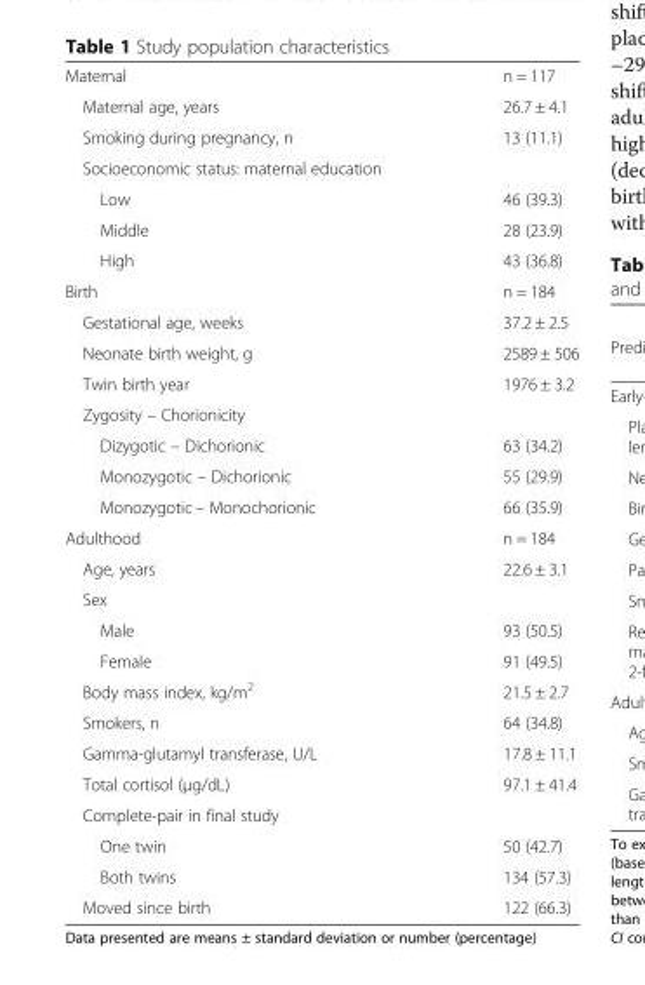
<table><tbody><tr><td>Maternal</td><td>n = 117</td></tr><tr><td>Maternal age, years</td><td>26.7 ± 4.1</td></tr><tr><td>Smoking during pregnancy, n</td><td>13 (11.1)</td></tr><tr><td colspan="2">Socioeconomic status: maternal education</td></tr><tr><td>Low</td><td>46 (39.3)</td></tr><tr><td>Middle</td><td>28 (23.9)</td></tr><tr><td>High</td><td>43 (36.8)</td></tr><tr><td>Birth</td><td>n = 184</td></tr><tr><td>Gestational age, weeks</td><td>37.2 ± 2.5</td></tr><tr><td>Neonate birth weight, g</td><td>2589 ± 506</td></tr><tr><td>Twin birth year</td><td>1976 ± 3.2</td></tr><tr><td colspan="2">Zygosity – Chorionicity</td></tr><tr><td>Dizygotic – Dichorionic</td><td>63 (34.2)</td></tr><tr><td>Monozygotic – Dichorionic</td><td>55 (29.9)</td></tr><tr><td>Monozygotic – Monochorionic</td><td>66 (35.9)</td></tr><tr><td>Adulthood</td><td>n = 184</td></tr><tr><td>Age, years</td><td>22.6 ± 3.1</td></tr><tr><td colspan="2">Sex</td></tr><tr><td>Male</td><td>93 (50.5)</td></tr><tr><td>Female</td><td>91 (49.5)</td></tr><tr><td>Body mass index, kg/m<sup>2</sup></td><td>21.5 ± 2.7</td></tr><tr><td>Smokers, n</td><td>64 (34.8)</td></tr><tr><td>Gamma-glutamyl transferase, U/L</td><td>17.8 ± 11.1</td></tr><tr><td>Total cortisol (μg/dL)</td><td>97.1 ± 41.4</td></tr><tr><td colspan="2">Complete-pair in final study</td></tr><tr><td>One twin</td><td>50 (42.7)</td></tr><tr><td>Both twins</td><td>134 (57.3)</td></tr><tr><td>Moved since birth</td><td>122 (66.3)</td></tr></tbody></table>